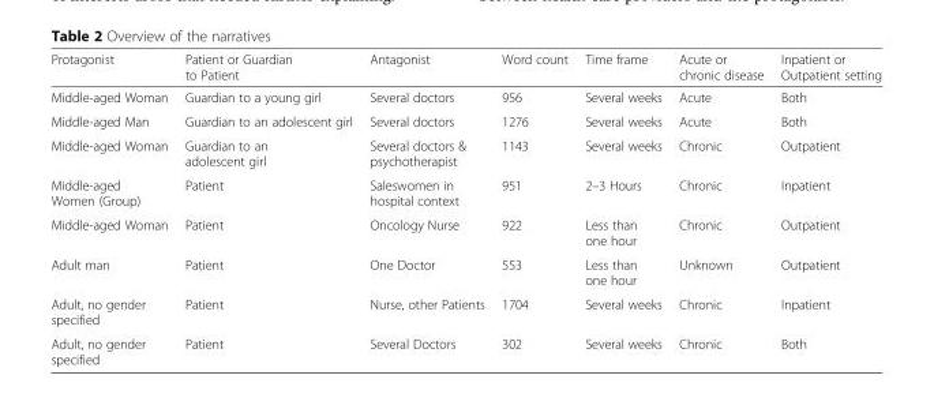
<table><thead><tr><td>Protagonist</td><td>Patient or Guardian to Patient</td><td>Antagonist</td><td>Word count</td><td>Time frame</td><td>Acute or chronic disease</td><td>Inpatient or Outpatient setting</td></tr></thead><tbody><tr><td>Middle-aged Woman</td><td>Guardian to a young girl</td><td>Several doctors</td><td>956</td><td>Several weeks</td><td>Acute</td><td>Both</td></tr><tr><td>Middle-aged Man</td><td>Guardian to an adolescent girl</td><td>Several doctors</td><td>1276</td><td>Several weeks</td><td>Acute</td><td>Both</td></tr><tr><td>Middle-aged Woman</td><td>Guardian to an adolescent girl</td><td>Several doctors &amp; psychotherapist</td><td>1143</td><td>Several weeks</td><td>Chronic</td><td>Outpatient</td></tr><tr><td>Middle-aged Women (Group)</td><td>Patient</td><td>Saleswomen in hospital context</td><td>951</td><td>2–3 Hours</td><td>Chronic</td><td>Inpatient</td></tr><tr><td>Middle-aged Woman</td><td>Patient</td><td>Oncology Nurse</td><td>922</td><td>Less than one hour</td><td>Chronic</td><td>Outpatient</td></tr><tr><td>Adult man</td><td>Patient</td><td>One Doctor</td><td>553</td><td>Less than one hour</td><td>Unknown</td><td>Outpatient</td></tr><tr><td>Adult, no gender specified</td><td>Patient</td><td>Nurse, other Patients</td><td>1704</td><td>Several weeks</td><td>Chronic</td><td>Inpatient</td></tr><tr><td>Adult, no gender specified</td><td>Patient</td><td>Several Doctors</td><td>302</td><td>Several weeks</td><td>Chronic</td><td>Both</td></tr></tbody></table>